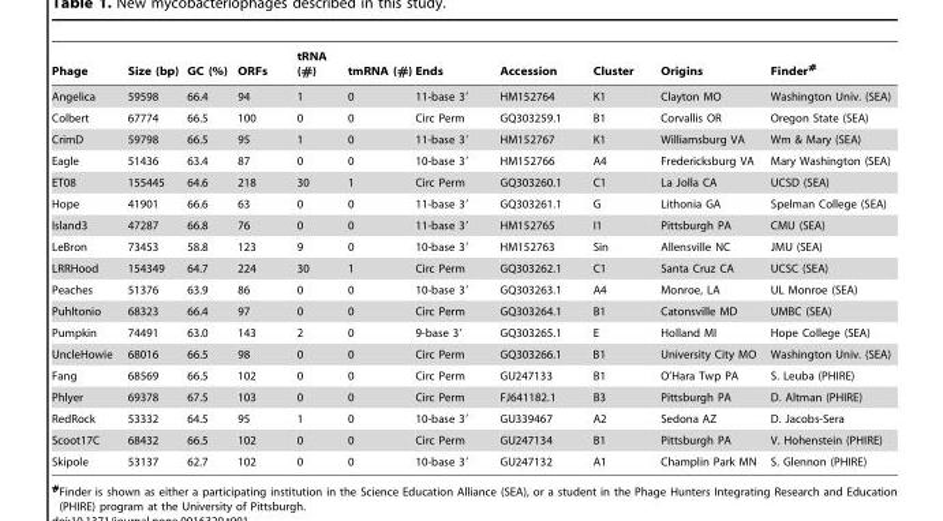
<table><thead><tr><td>Phage</td><td>Size (bp)</td><td>GC (%)</td><td>ORFs</td><td>tRNA (#)</td><td>tmRNA (#)</td><td>Ends</td><td>Accession</td><td>Cluster</td><td>Origins</td><td>Finder#</td></tr></thead><tbody><tr><td>Angelica</td><td>59598</td><td>66.4</td><td>94</td><td>1</td><td>0</td><td>11-base 3′</td><td>HM152764</td><td>K1</td><td>Clayton MO</td><td>Washington Univ. (SEA)</td></tr><tr><td>Colbert</td><td>67774</td><td>66.5</td><td>100</td><td>0</td><td>0</td><td>Circ Perm</td><td>GQ303259.1</td><td>B1</td><td>Corvallis OR</td><td>Oregon State (SEA)</td></tr><tr><td>CrimD</td><td>59798</td><td>66.5</td><td>95</td><td>1</td><td>0</td><td>11-base 3′</td><td>HM152767</td><td>K1</td><td>Williamsburg VA</td><td>Wm &amp; Mary (SEA)</td></tr><tr><td>Eagle</td><td>51436</td><td>63.4</td><td>87</td><td>0</td><td>0</td><td>10-base 3′</td><td>HM152766</td><td>A4</td><td>Fredericksburg VA</td><td>Mary Washington (SEA)</td></tr><tr><td>ET08</td><td>155445</td><td>64.6</td><td>218</td><td>30</td><td>1</td><td>Circ Perm</td><td>GQ303260.1</td><td>C1</td><td>La Jolla CA</td><td>UCSD (SEA)</td></tr><tr><td>Hope</td><td>41901</td><td>66.6</td><td>63</td><td>0</td><td>0</td><td>11-base 3′</td><td>GQ303261.1</td><td>G</td><td>Lithonia GA</td><td>Spelman College (SEA)</td></tr><tr><td>Island3</td><td>47287</td><td>66.8</td><td>76</td><td>0</td><td>0</td><td>11-base 3′</td><td>HM152765</td><td>I1</td><td>Pittsburgh PA</td><td>CMU (SEA)</td></tr><tr><td>LeBron</td><td>73453</td><td>58.8</td><td>123</td><td>9</td><td>0</td><td>10-base 3′</td><td>HM152763</td><td>Sin</td><td>Allensville NC</td><td>JMU (SEA)</td></tr><tr><td>LRRHood</td><td>154349</td><td>64.7</td><td>224</td><td>30</td><td>1</td><td>Circ Perm</td><td>GQ303262.1</td><td>C1</td><td>Santa Cruz CA</td><td>UCSC (SEA)</td></tr><tr><td>Peaches</td><td>51376</td><td>63.9</td><td>86</td><td>0</td><td>0</td><td>10-base 3′</td><td>GQ303263.1</td><td>A4</td><td>Monroe, LA</td><td>UL Monroe (SEA)</td></tr><tr><td>Puhltonio</td><td>68323</td><td>66.4</td><td>97</td><td>0</td><td>0</td><td>Circ Perm</td><td>GQ303264.1</td><td>B1</td><td>Catonsville MD</td><td>UMBC (SEA)</td></tr><tr><td>Pumpkin</td><td>74491</td><td>63.0</td><td>143</td><td>2</td><td>0</td><td>9-base 3′</td><td>GQ303265.1</td><td>E</td><td>Holland MI</td><td>Hope College (SEA)</td></tr><tr><td>UncleHowie</td><td>68016</td><td>66.5</td><td>98</td><td>0</td><td>0</td><td>Circ Perm</td><td>GQ303266.1</td><td>B1</td><td>University City MO</td><td>Washington Univ. (SEA)</td></tr><tr><td>Fang</td><td>68569</td><td>66.5</td><td>102</td><td>0</td><td>0</td><td>Circ Perm</td><td>GU247133</td><td>B1</td><td>O’Hara Twp PA</td><td>S. Leuba (PHIRE)</td></tr><tr><td>Phlyer</td><td>69378</td><td>67.5</td><td>103</td><td>0</td><td>0</td><td>Circ Perm</td><td>FJ641182.1</td><td>B3</td><td>Pittsburgh PA</td><td>D. Altman (PHIRE)</td></tr><tr><td>RedRock</td><td>53332</td><td>64.5</td><td>95</td><td>1</td><td>0</td><td>10-base 3′</td><td>GU339467</td><td>A2</td><td>Sedona AZ</td><td>D. Jacobs-Sera</td></tr><tr><td>Scoot17C</td><td>68432</td><td>66.5</td><td>102</td><td>0</td><td>0</td><td>Circ Perm</td><td>GU247134</td><td>B1</td><td>Pittsburgh PA</td><td>V. Hohenstein (PHIRE)</td></tr><tr><td>Skipole</td><td>53137</td><td>62.7</td><td>102</td><td>0</td><td>0</td><td>10-base 3′</td><td>GU247132</td><td>A1</td><td>Champlin Park MN</td><td>S. Glennon (PHIRE)</td></tr></tbody></table>